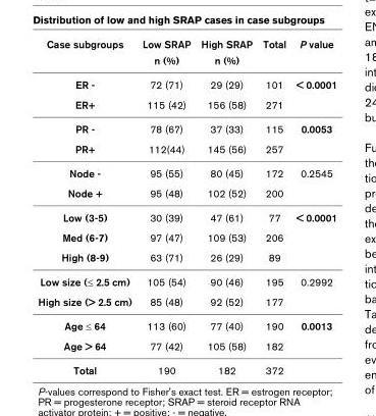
<table><thead><tr><td rowspan="2">Case subgroups</td><td rowspan="2">Low SRAP n (%)</td><td rowspan="2">High SRAP n (%)</td><td rowspan="2">Total</td><td rowspan="2">P value</td></tr><tr></tr></thead><tbody><tr><td>ER -</td><td>72 (71)</td><td>29 (29)</td><td>101</td><td>&lt; 0.0001</td></tr><tr><td>ER+</td><td>115 (42)</td><td>156 (58)</td><td>271</td><td></td></tr><tr><td>PR -</td><td>78 (67)</td><td>37 (33)</td><td>115</td><td>0.0053</td></tr><tr><td>PR+</td><td>112(44)</td><td>145 (56)</td><td>257</td><td></td></tr><tr><td>Node -</td><td>95 (55)</td><td>80 (45)</td><td>172</td><td>0.2545</td></tr><tr><td>Node +</td><td>95 (48)</td><td>102 (52)</td><td>200</td><td></td></tr><tr><td>Low (3-5)</td><td>30 (39)</td><td>47 (61)</td><td>77</td><td>&lt; 0.0001</td></tr><tr><td>Med (6-7)</td><td>97 (47)</td><td>109 (53)</td><td>206</td><td></td></tr><tr><td>High (8-9)</td><td>63 (71)</td><td>26 (29)</td><td>89</td><td></td></tr><tr><td>Low size (≤ 2.5 cm)</td><td>105 (54)</td><td>90 (46)</td><td>195</td><td>0.2992</td></tr><tr><td>High size (&gt; 2.5 cm)</td><td>85 (48)</td><td>92 (52)</td><td>177</td><td></td></tr><tr><td>Age ≤ 64</td><td>113 (60)</td><td>77 (40)</td><td>190</td><td>0.0013</td></tr><tr><td>Age &gt; 64</td><td>77 (42)</td><td>105 (58)</td><td>182</td><td></td></tr><tr><td>Total</td><td>190</td><td>182</td><td>372</td><td></td></tr></tbody></table>